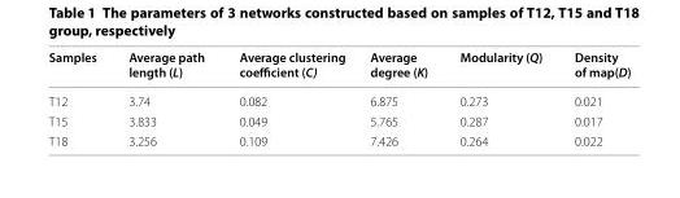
<table><thead><tr><td>Samples</td><td>Average path length (L)</td><td>Average clustering coefficient (C)</td><td>Average degree (K)</td><td>Modularity (Q)</td><td>Density of map(D)</td></tr></thead><tbody><tr><td>T12</td><td>3.74</td><td>0.082</td><td>6.875</td><td>0.273</td><td>0.021</td></tr><tr><td>T15</td><td>3.833</td><td>0.049</td><td>5.765</td><td>0.287</td><td>0.017</td></tr><tr><td>T18</td><td>3.256</td><td>0.109</td><td>7.426</td><td>0.264</td><td>0.022</td></tr></tbody></table>